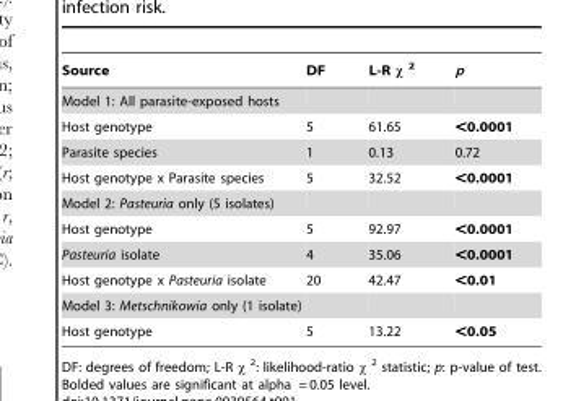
<table><thead><tr><td>Source</td><td>DF</td><td>L-R χ <sup>2</sup></td><td>p</td></tr></thead><tbody><tr><td colspan="4">Model 1: All parasite-exposed hosts</td></tr><tr><td>Host genotype</td><td>5</td><td>61.65</td><td>&lt;0.0001</td></tr><tr><td>Parasite species</td><td>1</td><td>0.13</td><td>0.72</td></tr><tr><td>Host genotype x Parasite species</td><td>5</td><td>32.52</td><td>&lt;0.0001</td></tr><tr><td colspan="4">Model 2: Pasteuria only (5 isolates)</td></tr><tr><td>Host genotype</td><td>5</td><td>92.97</td><td>&lt;0.0001</td></tr><tr><td>Pasteuria isolate</td><td>4</td><td>35.06</td><td>&lt;0.0001</td></tr><tr><td>Host genotype x Pasteuria isolate</td><td>20</td><td>42.47</td><td>&lt;0.01</td></tr><tr><td colspan="4">Model 3: Metschnikowia only (1 isolate)</td></tr><tr><td>Host genotype</td><td>5</td><td>13.22</td><td>&lt;0.05</td></tr></tbody></table>